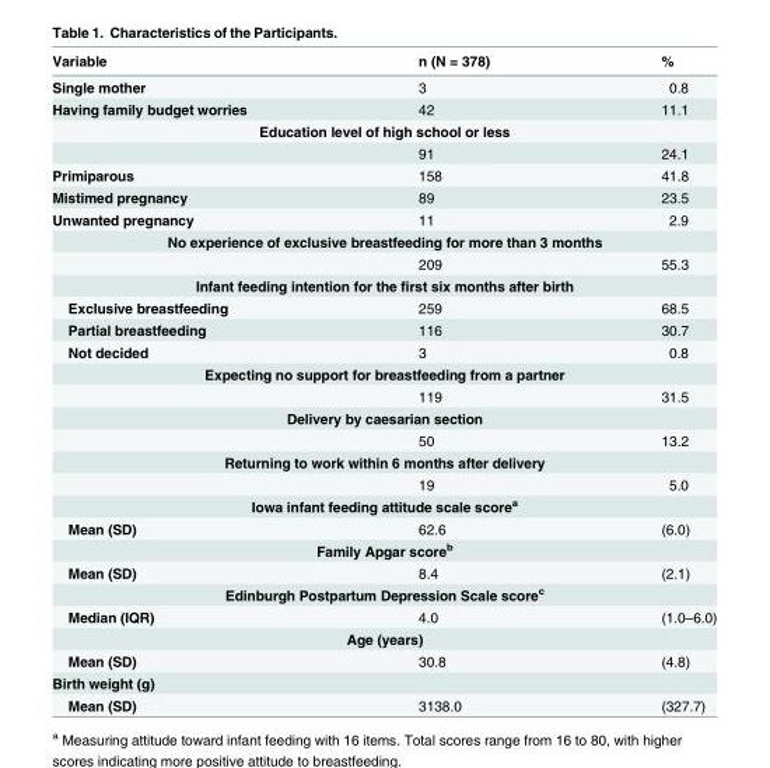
<table><thead><tr><td>Variable</td><td>n (N = 378)</td><td>%</td></tr></thead><tbody><tr><td>Single mother</td><td>3</td><td>0.8</td></tr><tr><td>Having family budget worries</td><td>42</td><td>11.1</td></tr><tr><td colspan="3">Education level of high school or less</td></tr><tr><td></td><td>91</td><td>24.1</td></tr><tr><td>Primiparous</td><td>158</td><td>41.8</td></tr><tr><td>Mistimed pregnancy</td><td>89</td><td>23.5</td></tr><tr><td>Unwanted pregnancy</td><td>11</td><td>2.9</td></tr><tr><td colspan="3">No experience of exclusive breastfeeding for more than 3 months</td></tr><tr><td></td><td>209</td><td>55.3</td></tr><tr><td colspan="3">Infant feeding intention for the first six months after birth</td></tr><tr><td>Exclusive breastfeeding</td><td>259</td><td>68.5</td></tr><tr><td>Partial breastfeeding</td><td>116</td><td>30.7</td></tr><tr><td>Not decided</td><td>3</td><td>0.8</td></tr><tr><td colspan="3">Expecting no support for breastfeeding from a partner</td></tr><tr><td></td><td>119</td><td>31.5</td></tr><tr><td colspan="3">Delivery by caesarian section</td></tr><tr><td></td><td>50</td><td>13.2</td></tr><tr><td colspan="3">Returning to work within 6 months after delivery</td></tr><tr><td></td><td>19</td><td>5.0</td></tr><tr><td colspan="3">Iowa infant feeding attitude scale score<sup>a</sup></td></tr><tr><td>Mean (SD)</td><td>62.6</td><td>(6.0)</td></tr><tr><td colspan="3">Family Apgar score<sup>b</sup></td></tr><tr><td>Mean (SD)</td><td>8.4</td><td>(2.1)</td></tr><tr><td colspan="3">Edinburgh Postpartum Depression Scale score<sup>c</sup></td></tr><tr><td>Median (IQR)</td><td>4.0</td><td>(1.0–6.0)</td></tr><tr><td colspan="3">Age (years)</td></tr><tr><td>Mean (SD)</td><td>30.8</td><td>(4.8)</td></tr><tr><td colspan="3">Birth weight (g)</td></tr><tr><td>Mean (SD)</td><td>3138.0</td><td>(327.7)</td></tr></tbody></table>